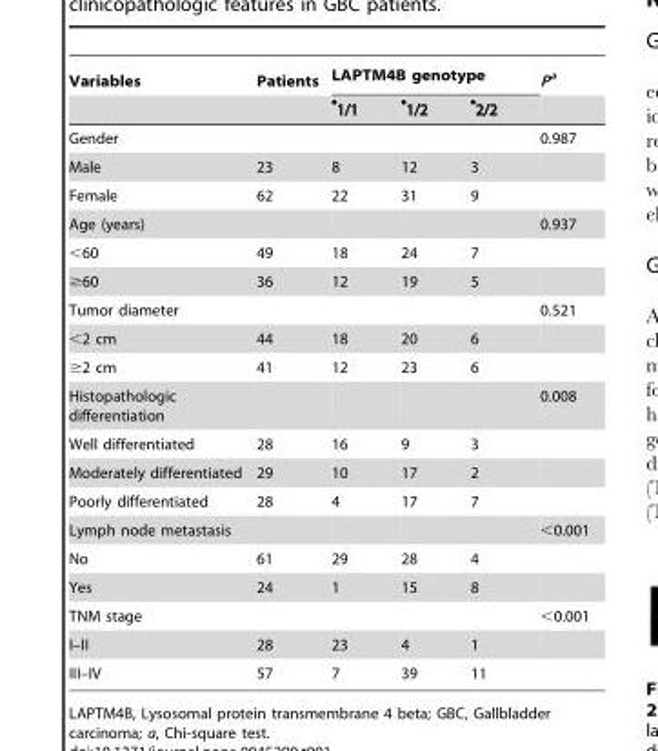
<table><thead><tr><td rowspan="2">Variables</td><td rowspan="2">Patients</td><td colspan="3">LAPTM4B genotype</td><td rowspan="2">P<sup>a</sup></td></tr><tr><td>*1/1</td><td>*1/2</td><td>*2/2</td></tr></thead><tbody><tr><td>Gender</td><td></td><td></td><td></td><td></td><td>0.987</td></tr><tr><td>Male</td><td>23</td><td>8</td><td>12</td><td>3</td><td></td></tr><tr><td>Female</td><td>62</td><td>22</td><td>31</td><td>9</td><td></td></tr><tr><td>Age (years)</td><td></td><td></td><td></td><td></td><td>0.937</td></tr><tr><td>&lt;60</td><td>49</td><td>18</td><td>24</td><td>7</td><td></td></tr><tr><td>≥60</td><td>36</td><td>12</td><td>19</td><td>5</td><td></td></tr><tr><td>Tumor diameter</td><td></td><td></td><td></td><td></td><td>0.521</td></tr><tr><td>&lt;2 cm</td><td>44</td><td>18</td><td>20</td><td>6</td><td></td></tr><tr><td>≥2 cm</td><td>41</td><td>12</td><td>23</td><td>6</td><td></td></tr><tr><td>Histopathologic differentiation</td><td></td><td></td><td></td><td></td><td>0.008</td></tr><tr><td>Well differentiated</td><td>28</td><td>16</td><td>9</td><td>3</td><td></td></tr><tr><td>Moderately differentiated</td><td>29</td><td>10</td><td>17</td><td>2</td><td></td></tr><tr><td>Poorly differentiated</td><td>28</td><td>4</td><td>17</td><td>7</td><td></td></tr><tr><td>Lymph node metastasis</td><td></td><td></td><td></td><td></td><td>&lt;0.001</td></tr><tr><td>No</td><td>61</td><td>29</td><td>28</td><td>4</td><td></td></tr><tr><td>Yes</td><td>24</td><td>1</td><td>15</td><td>8</td><td></td></tr><tr><td>TNM stage</td><td></td><td></td><td></td><td></td><td>&lt;0.001</td></tr><tr><td>I–II</td><td>28</td><td>23</td><td>4</td><td>1</td><td></td></tr><tr><td>III–IV</td><td>57</td><td>7</td><td>39</td><td>11</td><td></td></tr></tbody></table>